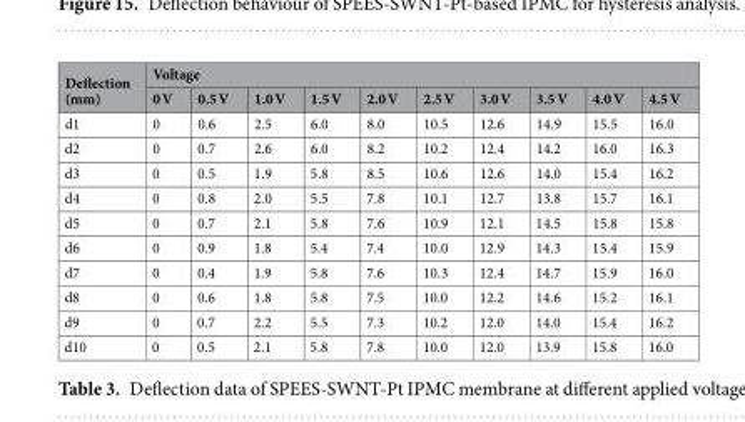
<table><thead><tr><td rowspan="2">Deflection (mm)</td><td colspan="10">Voltage</td></tr><tr><td>0 V</td><td>0.5 V</td><td>1.0 V</td><td>1.5 V</td><td>2.0 V</td><td>2.5 V</td><td>3.0 V</td><td>3.5 V</td><td>4.0 V</td><td>4.5 V</td></tr></thead><tbody><tr><td>d1</td><td>0</td><td>0.6</td><td>2.5</td><td>6.0</td><td>8.0</td><td>10.5</td><td>12.6</td><td>14.9</td><td>15.5</td><td>16.0</td></tr><tr><td>d2</td><td>0</td><td>0.7</td><td>2.6</td><td>6.0</td><td>8.2</td><td>10.2</td><td>12.4</td><td>14.2</td><td>16.0</td><td>16.3</td></tr><tr><td>d3</td><td>0</td><td>0.5</td><td>1.9</td><td>5.8</td><td>8.5</td><td>10.6</td><td>12.6</td><td>14.0</td><td>15.4</td><td>16.2</td></tr><tr><td>d4</td><td>0</td><td>0.8</td><td>2.0</td><td>5.5</td><td>7.8</td><td>10.1</td><td>12.7</td><td>13.8</td><td>15.7</td><td>16.1</td></tr><tr><td>d5</td><td>0</td><td>0.7</td><td>2.1</td><td>5.8</td><td>7.6</td><td>10.9</td><td>12.1</td><td>14.5</td><td>15.8</td><td>15.8</td></tr><tr><td>d6</td><td>0</td><td>0.9</td><td>1.8</td><td>5.4</td><td>7.4</td><td>10.0</td><td>12.9</td><td>14.3</td><td>15.4</td><td>15.9</td></tr><tr><td>d7</td><td>0</td><td>0.4</td><td>1.9</td><td>5.8</td><td>7.6</td><td>10.3</td><td>12.4</td><td>14.7</td><td>15.9</td><td>16.0</td></tr><tr><td>d8</td><td>0</td><td>0.6</td><td>1.8</td><td>5.8</td><td>7.5</td><td>10.0</td><td>12.2</td><td>14.6</td><td>15.2</td><td>16.1</td></tr><tr><td>d9</td><td>0</td><td>0.7</td><td>2.2</td><td>5.5</td><td>7.3</td><td>10.2</td><td>12.0</td><td>14.0</td><td>15.4</td><td>16.2</td></tr><tr><td>d10</td><td>0</td><td>0.5</td><td>2.1</td><td>5.8</td><td>7.8</td><td>10.0</td><td>12.0</td><td>13.9</td><td>15.8</td><td>16.0</td></tr></tbody></table>